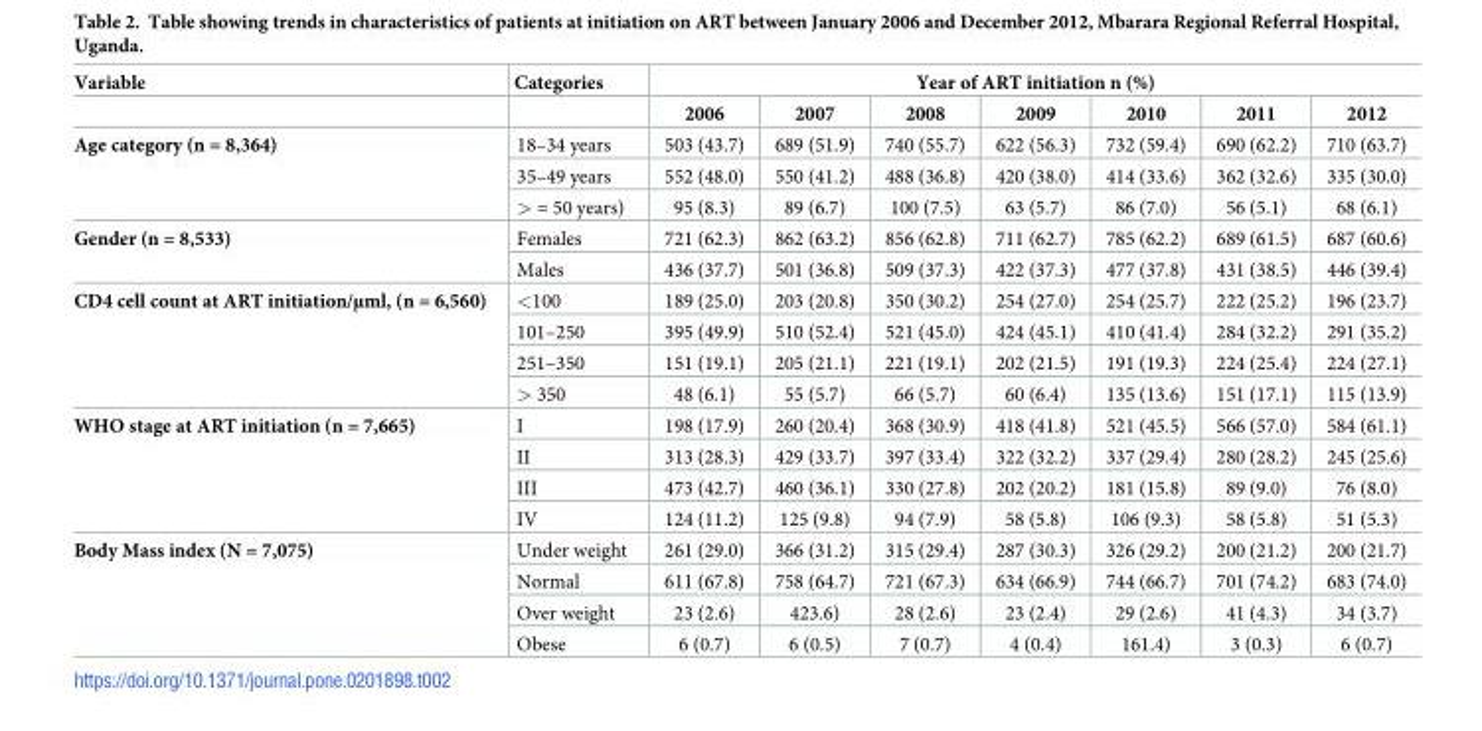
<table><thead><tr><td rowspan="2">Variable</td><td rowspan="2">Categories</td><td colspan="7">Year of ART initiation n (%)</td></tr><tr><td>2006</td><td>2007</td><td>2008</td><td>2009</td><td>2010</td><td>2011</td><td>2012</td></tr></thead><tbody><tr><td rowspan="3">Age category (n = 8,364)</td><td>18–34 years</td><td>503 (43.7)</td><td>689 (51.9)</td><td>740 (55.7)</td><td>622 (56.3)</td><td>732 (59.4)</td><td>690 (62.2)</td><td>710 (63.7)</td></tr><tr><td>35–49 years</td><td>552 (48.0)</td><td>550 (41.2)</td><td>488 (36.8)</td><td>420 (38.0)</td><td>414 (33.6)</td><td>362 (32.6)</td><td>335 (30.0)</td></tr><tr><td>&gt; = 50 years)</td><td>95 (8.3)</td><td>89 (6.7)</td><td>100 (7.5)</td><td>63 (5.7)</td><td>86 (7.0)</td><td>56 (5.1)</td><td>68 (6.1)</td></tr><tr><td rowspan="2">Gender (n = 8,533)</td><td>Females</td><td>721 (62.3)</td><td>862 (63.2)</td><td>856 (62.8)</td><td>711 (62.7)</td><td>785 (62.2)</td><td>689 (61.5)</td><td>687 (60.6)</td></tr><tr><td>Males</td><td>436 (37.7)</td><td>501 (36.8)</td><td>509 (37.3)</td><td>422 (37.3)</td><td>477 (37.8)</td><td>431 (38.5)</td><td>446 (39.4)</td></tr><tr><td rowspan="4">CD4 cell count at ART initiation/μml, (n = 6,560)</td><td>&lt;100</td><td>189 (25.0)</td><td>203 (20.8)</td><td>350 (30.2)</td><td>254 (27.0)</td><td>254 (25.7)</td><td>222 (25.2)</td><td>196 (23.7)</td></tr><tr><td>101–250</td><td>395 (49.9)</td><td>510 (52.4)</td><td>521 (45.0)</td><td>424 (45.1)</td><td>410 (41.4)</td><td>284 (32.2)</td><td>291 (35.2)</td></tr><tr><td>251–350</td><td>151 (19.1)</td><td>205 (21.1)</td><td>221 (19.1)</td><td>202 (21.5)</td><td>191 (19.3)</td><td>224 (25.4)</td><td>224 (27.1)</td></tr><tr><td>&gt; 350</td><td>48 (6.1)</td><td>55 (5.7)</td><td>66 (5.7)</td><td>60 (6.4)</td><td>135 (13.6)</td><td>151 (17.1)</td><td>115 (13.9)</td></tr><tr><td rowspan="4">WHO stage at ART initiation (n = 7,665)</td><td>I</td><td>198 (17.9)</td><td>260 (20.4)</td><td>368 (30.9)</td><td>418 (41.8)</td><td>521 (45.5)</td><td>566 (57.0)</td><td>584 (61.1)</td></tr><tr><td>II</td><td>313 (28.3)</td><td>429 (33.7)</td><td>397 (33.4)</td><td>322 (32.2)</td><td>337 (29.4)</td><td>280 (28.2)</td><td>245 (25.6)</td></tr><tr><td>III</td><td>473 (42.7)</td><td>460 (36.1)</td><td>330 (27.8)</td><td>202 (20.2)</td><td>181 (15.8)</td><td>89 (9.0)</td><td>76 (8.0)</td></tr><tr><td>IV</td><td>124 (11.2)</td><td>125 (9.8)</td><td>94 (7.9)</td><td>58 (5.8)</td><td>106 (9.3)</td><td>58 (5.8)</td><td>51 (5.3)</td></tr><tr><td rowspan="4">Body Mass index (N = 7,075)</td><td>Under weight</td><td>261 (29.0)</td><td>366 (31.2)</td><td>315 (29.4)</td><td>287 (30.3)</td><td>326 (29.2)</td><td>200 (21.2)</td><td>200 (21.7)</td></tr><tr><td>Normal</td><td>611 (67.8)</td><td>758 (64.7)</td><td>721 (67.3)</td><td>634 (66.9)</td><td>744 (66.7)</td><td>701 (74.2)</td><td>683 (74.0)</td></tr><tr><td>Over weight</td><td>23 (2.6)</td><td>423.6)</td><td>28 (2.6)</td><td>23 (2.4)</td><td>29 (2.6)</td><td>41 (4.3)</td><td>34 (3.7)</td></tr><tr><td>Obese</td><td>6 (0.7)</td><td>6 (0.5)</td><td>7 (0.7)</td><td>4 (0.4)</td><td>161.4)</td><td>3 (0.3)</td><td>6 (0.7)</td></tr></tbody></table>